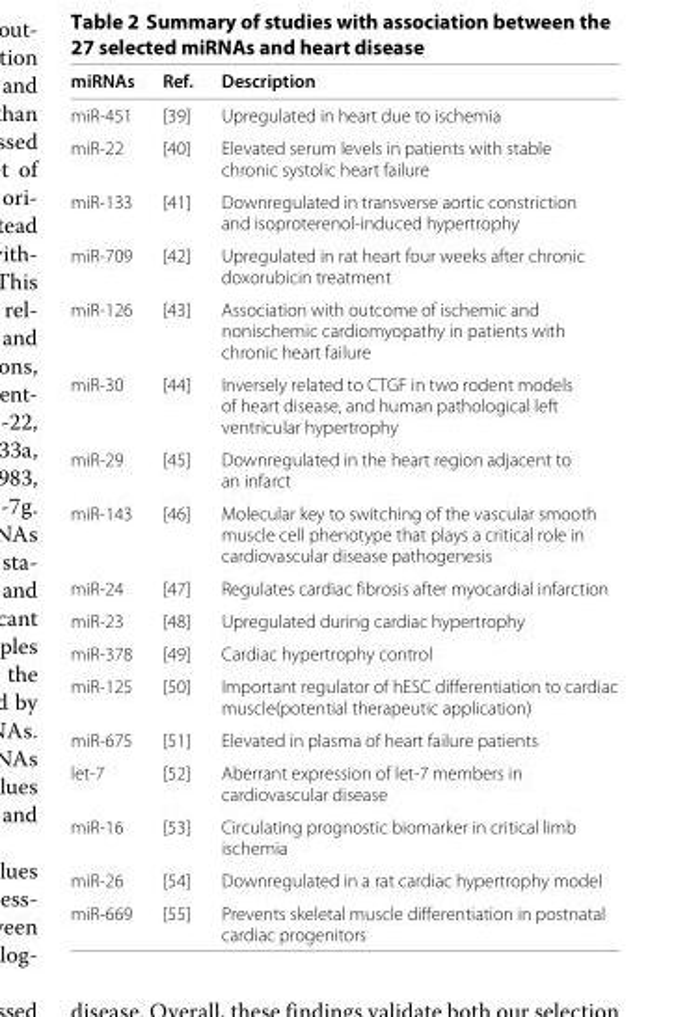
<table><thead><tr><td>miRNAs</td><td>Ref.</td><td>Description</td></tr></thead><tbody><tr><td>miR-451</td><td>[39]</td><td>Upregulated in heart due to ischemia</td></tr><tr><td>miR-22</td><td>[40]</td><td>Elevated serum levels in patients with stable chronic systolic heart failure</td></tr><tr><td>miR-133</td><td>[41]</td><td>Downregulated in transverse aortic constriction and isoproterenol-induced hypertrophy</td></tr><tr><td>miR-709</td><td>[42]</td><td>Upregulated in rat heart four weeks after chronic doxorubicin treatment</td></tr><tr><td>miR-126</td><td>[43]</td><td>Association with outcome of ischemic and nonischemic cardiomyopathy in patients with chronic heart failure</td></tr><tr><td>miR-30</td><td>[44]</td><td>Inversely related to CTGF in two rodent models of heart disease, and human pathological left ventricular hypertrophy</td></tr><tr><td>miR-29</td><td>[45]</td><td>Downregulated in the heart region adjacent to an infarct</td></tr><tr><td>miR-143</td><td>[46]</td><td>Molecular key to switching of the vascular smooth muscle cell phenotype that plays a critical role in cardiovascular disease pathogenesis</td></tr><tr><td>miR-24</td><td>[47]</td><td>Regulates cardiac fibrosis after myocardial infarction</td></tr><tr><td>miR-23</td><td>[48]</td><td>Upregulated during cardiac hypertrophy</td></tr><tr><td>miR-378</td><td>[49]</td><td>Cardiac hypertrophy control</td></tr><tr><td>miR-125</td><td>[50]</td><td>Important regulator of hESC differentiation to cardiac muscle(potential therapeutic application)</td></tr><tr><td>miR-675</td><td>[51]</td><td>Elevated in plasma of heart failure patients</td></tr><tr><td>let-7</td><td>[52]</td><td>Aberrant expression of let-7 members in cardiovascular disease</td></tr><tr><td>miR-16</td><td>[53]</td><td>Circulating prognostic biomarker in critical limb ischemia</td></tr><tr><td>miR-26</td><td>[54]</td><td>Downregulated in a rat cardiac hypertrophy model</td></tr><tr><td>miR-669</td><td>[55]</td><td>Prevents skeletal muscle differentiation in postnatal cardiac progenitors</td></tr></tbody></table>